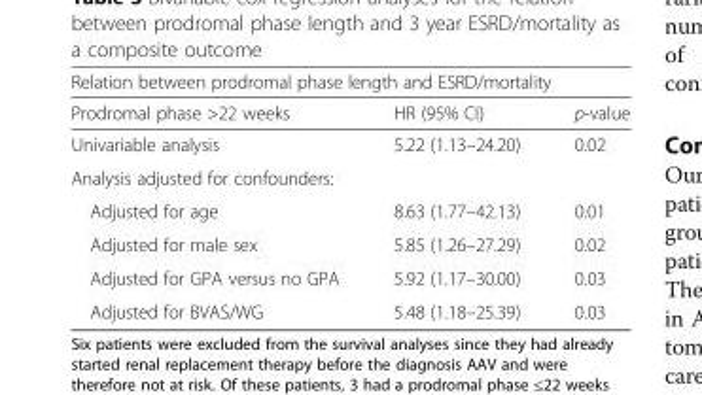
<table><thead><tr><td colspan="3">Relation between prodromal phase length and ESRD/mortality</td></tr><tr><td>Prodromal phase &gt;22 weeks</td><td>HR (95% CI)</td><td>p-value</td></tr></thead><tbody><tr><td>Univariable analysis</td><td>5.22 (1.13–24.20)</td><td>0.02</td></tr><tr><td colspan="3">Analysis adjusted for confounders:</td></tr><tr><td>Adjusted for age</td><td>8.63 (1.77–42.13)</td><td>0.01</td></tr><tr><td>Adjusted for male sex</td><td>5.85 (1.26–27.29)</td><td>0.02</td></tr><tr><td>Adjusted for GPA versus no GPA</td><td>5.92 (1.17–30.00)</td><td>0.03</td></tr><tr><td>Adjusted for BVAS/WG</td><td>5.48 (1.18–25.39)</td><td>0.03</td></tr></tbody></table>